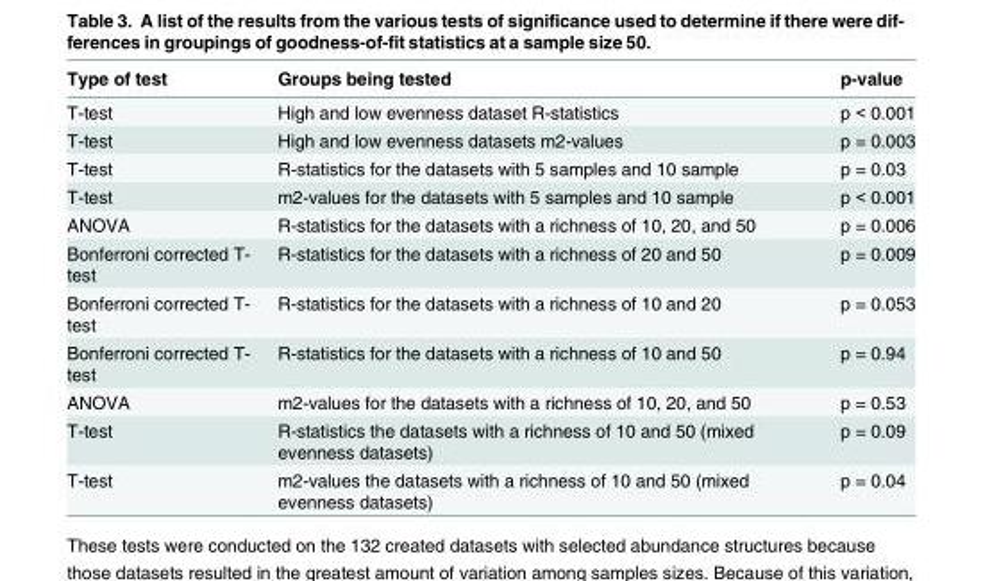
<table><thead><tr><td>Type of test</td><td>Groups being tested</td><td>p-value</td></tr></thead><tbody><tr><td>T-test</td><td>High and low evenness dataset R-statistics</td><td>p &lt; 0.001</td></tr><tr><td>T-test</td><td>High and low evenness datasets m2-values</td><td>p = 0.003</td></tr><tr><td>T-test</td><td>R-statistics for the datasets with 5 samples and 10 sample</td><td>p = 0.03</td></tr><tr><td>T-test</td><td>m2-values for the datasets with 5 samples and 10 sample</td><td>p &lt; 0.001</td></tr><tr><td>ANOVA</td><td>R-statistics for the datasets with a richness of 10, 20, and 50</td><td>p = 0.006</td></tr><tr><td>Bonferroni corrected T- test</td><td>R-statistics for the datasets with a richness of 20 and 50</td><td>p = 0.009</td></tr><tr><td>Bonferroni corrected T- test</td><td>R-statistics for the datasets with a richness of 10 and 20</td><td>p = 0.053</td></tr><tr><td>Bonferroni corrected T- test</td><td>R-statistics for the datasets with a richness of 10 and 50</td><td>p = 0.94</td></tr><tr><td>ANOVA</td><td>m2-values for the datasets with a richness of 10, 20, and 50</td><td>p = 0.53</td></tr><tr><td>T-test</td><td>R-statistics the datasets with a richness of 10 and 50 (mixed evenness datasets)</td><td>p = 0.09</td></tr><tr><td>T-test</td><td>m2-values the datasets with a richness of 10 and 50 (mixed evenness datasets)</td><td>p = 0.04</td></tr></tbody></table>